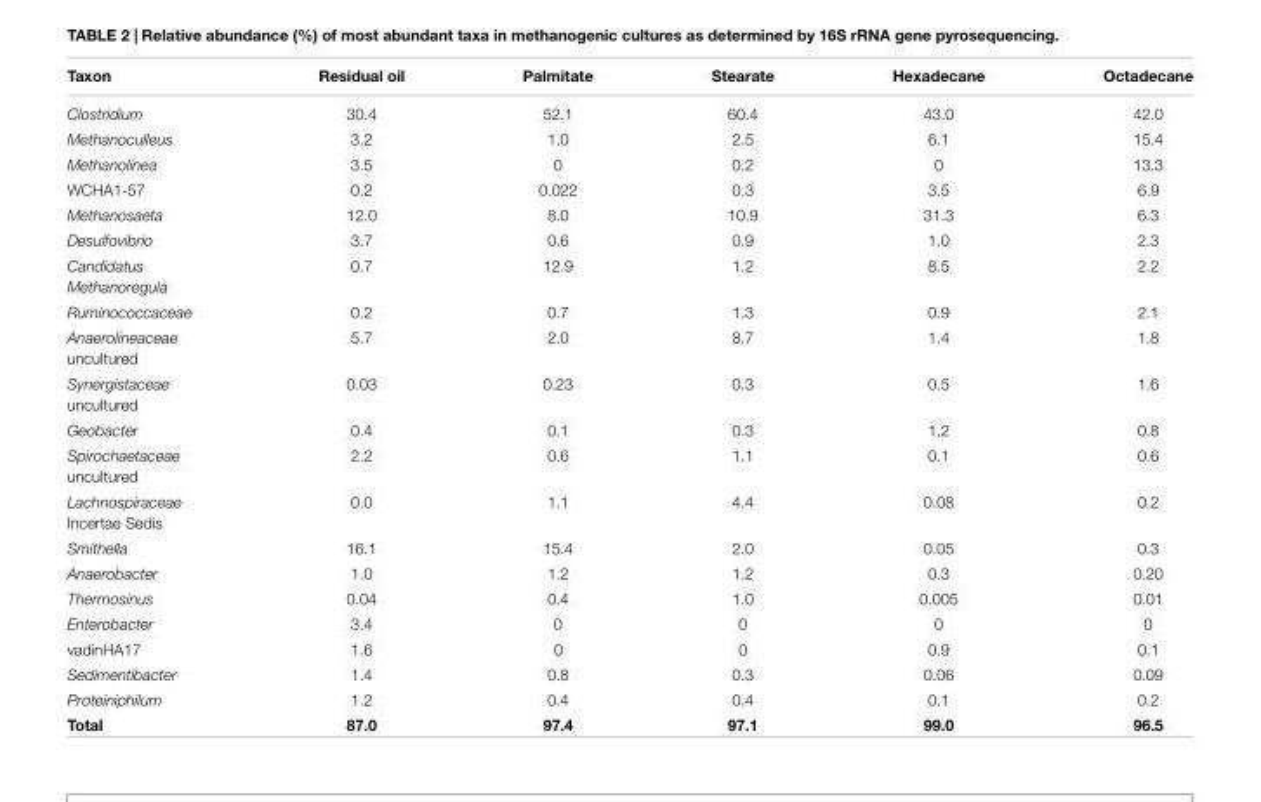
<table><thead><tr><td>Taxon</td><td>Residual oil</td><td>Palmitate</td><td>Stearate</td><td>Hexadecane</td><td>Octadecane</td></tr></thead><tbody><tr><td>Clostridium</td><td>30.4</td><td>52.1</td><td>60.4</td><td>43.0</td><td>42.0</td></tr><tr><td>Methanoculleus</td><td>3.2</td><td>1.0</td><td>2.5</td><td>6.1</td><td>15.4</td></tr><tr><td>Methanolinea</td><td>3.5</td><td>0</td><td>0.2</td><td>0</td><td>13.3</td></tr><tr><td>WCHA1-57</td><td>0.2</td><td>0.022</td><td>0.3</td><td>3.5</td><td>6.9</td></tr><tr><td>Methanosaeta</td><td>12.0</td><td>8.0</td><td>10.9</td><td>31.3</td><td>6.3</td></tr><tr><td>Desulfovibrio</td><td>3.7</td><td>0.6</td><td>0.9</td><td>1.0</td><td>2.3</td></tr><tr><td>Candidatus Methanoregula</td><td>0.7</td><td>12.9</td><td>1.2</td><td>8.5</td><td>2.2</td></tr><tr><td>Ruminococcaceae</td><td>0.2</td><td>0.7</td><td>1.3</td><td>0.9</td><td>2.1</td></tr><tr><td>Anaerolineaceae uncultured</td><td>5.7</td><td>2.0</td><td>8.7</td><td>1.4</td><td>1.8</td></tr><tr><td>Synergistaceae uncultured</td><td>0.03</td><td>0.23</td><td>0.3</td><td>0.5</td><td>1.6</td></tr><tr><td>Geobacter</td><td>0.4</td><td>0.1</td><td>0.3</td><td>1.2</td><td>0.8</td></tr><tr><td>Spirochaetaceae uncultured</td><td>2.2</td><td>0.6</td><td>1.1</td><td>0.1</td><td>0.6</td></tr><tr><td>Lachnospiraceae Incertae Sedis</td><td>0.0</td><td>1.1</td><td>4.4</td><td>0.08</td><td>0.2</td></tr><tr><td>Smithella</td><td>16.1</td><td>15.4</td><td>2.0</td><td>0.05</td><td>0.3</td></tr><tr><td>Anaerobacter</td><td>1.0</td><td>1.2</td><td>1.2</td><td>0.3</td><td>0.20</td></tr><tr><td>Thermosinus</td><td>0.04</td><td>0.4</td><td>1.0</td><td>0.005</td><td>0.01</td></tr><tr><td>Enterobacter</td><td>3.4</td><td>0</td><td>0</td><td>0</td><td>0</td></tr><tr><td>vadinHA17</td><td>1.6</td><td>0</td><td>0</td><td>0.9</td><td>0.1</td></tr><tr><td>Sedimentibacter</td><td>1.4</td><td>0.8</td><td>0.3</td><td>0.06</td><td>0.09</td></tr><tr><td>Proteiniphilum</td><td>1.2</td><td>0.4</td><td>0.4</td><td>0.1</td><td>0.2</td></tr><tr><td>Total</td><td>87.0</td><td>97.4</td><td>97.1</td><td>99.0</td><td>96.5</td></tr></tbody></table>